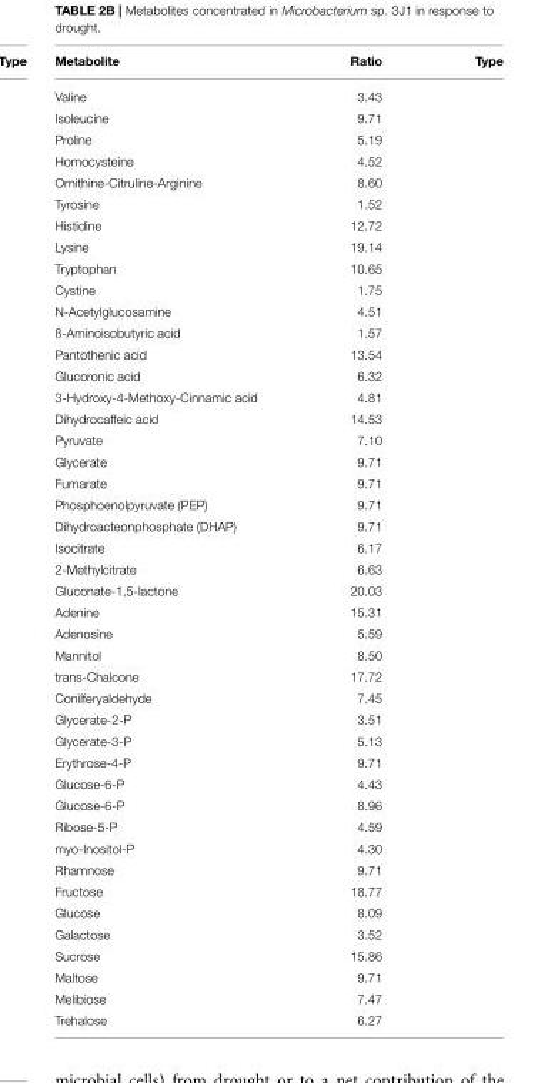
<table><thead><tr><td>Metabolite</td><td>Ratio</td><td>Type</td></tr></thead><tbody><tr><td>Valine</td><td>3.43</td><td></td></tr><tr><td>Isoleucine</td><td>9.71</td><td></td></tr><tr><td>Proline</td><td>5.19</td><td></td></tr><tr><td>Homocysteine</td><td>4.52</td><td></td></tr><tr><td>Ornithine-Citruline-Arginine</td><td>8.60</td><td></td></tr><tr><td>Tyrosine</td><td>1.52</td><td></td></tr><tr><td>Histidine</td><td>12.72</td><td></td></tr><tr><td>Lysine</td><td>19.14</td><td></td></tr><tr><td>Tryptophan</td><td>10.65</td><td></td></tr><tr><td>Cystine</td><td>1.75</td><td></td></tr><tr><td>N-Acetylglucosamine</td><td>4.51</td><td></td></tr><tr><td>ß-Aminoisobutyric acid</td><td>1.57</td><td></td></tr><tr><td>Pantothenic acid</td><td>13.54</td><td></td></tr><tr><td>Glucoronic acid</td><td>6.32</td><td></td></tr><tr><td>3-Hydroxy-4-Methoxy-Cinnamic acid</td><td>4.81</td><td></td></tr><tr><td>Dihydrocaffeic acid</td><td>14.53</td><td></td></tr><tr><td>Pyruvate</td><td>7.10</td><td></td></tr><tr><td>Glycerate</td><td>9.71</td><td></td></tr><tr><td>Fumarate</td><td>9.71</td><td></td></tr><tr><td>Phosphoenolpyruvate (PEP)</td><td>9.71</td><td></td></tr><tr><td>Dihydroacteonphosphate (DHAP)</td><td>9.71</td><td></td></tr><tr><td>Isocitrate</td><td>6.17</td><td></td></tr><tr><td>2-Methylcitrate</td><td>6.63</td><td></td></tr><tr><td>Gluconate-1,5-lactone</td><td>20.03</td><td></td></tr><tr><td>Adenine</td><td>15.31</td><td></td></tr><tr><td>Adenosine</td><td>5.59</td><td></td></tr><tr><td>Mannitol</td><td>8.50</td><td></td></tr><tr><td>trans-Chalcone</td><td>17.72</td><td></td></tr><tr><td>Conilferyaldehyde</td><td>7.45</td><td></td></tr><tr><td>Glycerate-2-P</td><td>3.51</td><td></td></tr><tr><td>Glycerate-3-P</td><td>5.13</td><td></td></tr><tr><td>Erythrose-4-P</td><td>9.71</td><td></td></tr><tr><td>Glucose-6-P</td><td>4.43</td><td></td></tr><tr><td>Glucose-6-P</td><td>8.96</td><td></td></tr><tr><td>Ribose-5-P</td><td>4.59</td><td></td></tr><tr><td>myo-Inositol-P</td><td>4.30</td><td></td></tr><tr><td>Rhamnose</td><td>9.71</td><td></td></tr><tr><td>Fructose</td><td>18.77</td><td></td></tr><tr><td>Glucose</td><td>8.09</td><td></td></tr><tr><td>Galactose</td><td>3.52</td><td></td></tr><tr><td>Sucrose</td><td>15.86</td><td></td></tr><tr><td>Maltose</td><td>9.71</td><td></td></tr><tr><td>Melibiose</td><td>7.47</td><td></td></tr><tr><td>Trehalose</td><td>6.27</td><td></td></tr></tbody></table>